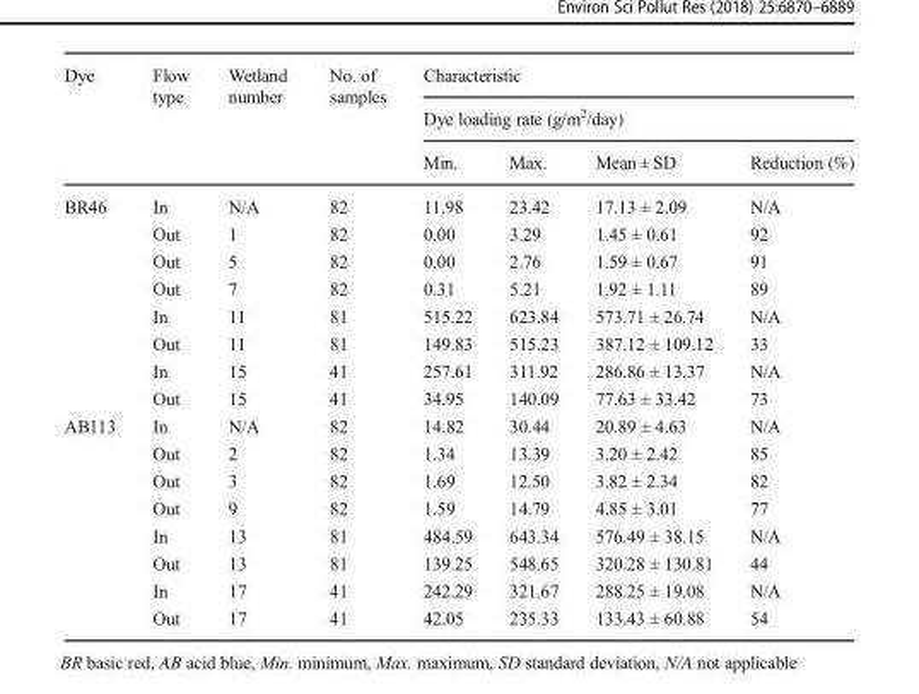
<table><thead><tr><td rowspan="3">Dye</td><td rowspan="3">Flow type</td><td rowspan="3">Wetland number</td><td rowspan="3">No. of samples</td><td rowspan="2" colspan="4">Characteristic Dye loading rate (g/m<sup>2</sup>/day)</td></tr><tr></tr><tr><td>Min.</td><td>Max.</td><td>Mean ± SD</td><td>Reduction (%)</td></tr></thead><tbody><tr><td rowspan="8">BR46</td><td>In</td><td>N/A</td><td>82</td><td>11.98</td><td>23.42</td><td>17.13 ± 2.09</td><td>N/A</td></tr><tr><td>Out</td><td>1</td><td>82</td><td>0.00</td><td>3.29</td><td>1.45 ± 0.61</td><td>92</td></tr><tr><td>Out</td><td>5</td><td>82</td><td>0.00</td><td>2.76</td><td>1.59 ± 0.67</td><td>91</td></tr><tr><td>Out</td><td>7</td><td>82</td><td>0.31</td><td>5.21</td><td>1.92 ± 1.11</td><td>89</td></tr><tr><td>In</td><td>11</td><td>81</td><td>515.22</td><td>623.84</td><td>573.71 ± 26.74</td><td>N/A</td></tr><tr><td>Out</td><td>11</td><td>81</td><td>149.83</td><td>515.23</td><td>387.12 ± 109.12</td><td>33</td></tr><tr><td>In</td><td>15</td><td>41</td><td>257.61</td><td>311.92</td><td>286.86 ± 13.37</td><td>N/A</td></tr><tr><td>Out</td><td>15</td><td>41</td><td>34.95</td><td>140.09</td><td>77.63 ± 33.42</td><td>73</td></tr><tr><td rowspan="8">AB113</td><td>In</td><td>N/A</td><td>82</td><td>14.82</td><td>30.44</td><td>20.89 ± 4.63</td><td>N/A</td></tr><tr><td>Out</td><td>2</td><td>82</td><td>1.34</td><td>13.39</td><td>3.20 ± 2.42</td><td>85</td></tr><tr><td>Out</td><td>3</td><td>82</td><td>1.69</td><td>12.50</td><td>3.82 ± 2.34</td><td>82</td></tr><tr><td>Out</td><td>9</td><td>82</td><td>1.59</td><td>14.79</td><td>4.85 ± 3.01</td><td>77</td></tr><tr><td>In</td><td>13</td><td>81</td><td>484.59</td><td>643.34</td><td>576.49 ± 38.15</td><td>N/A</td></tr><tr><td>Out</td><td>13</td><td>81</td><td>139.25</td><td>548.65</td><td>320.28 ± 130.81</td><td>44</td></tr><tr><td>In</td><td>17</td><td>41</td><td>242.29</td><td>321.67</td><td>288.25 ± 19.08</td><td>N/A</td></tr><tr><td>Out</td><td>17</td><td>41</td><td>42.05</td><td>235.33</td><td>133.43 ± 60.88</td><td>54</td></tr></tbody></table>